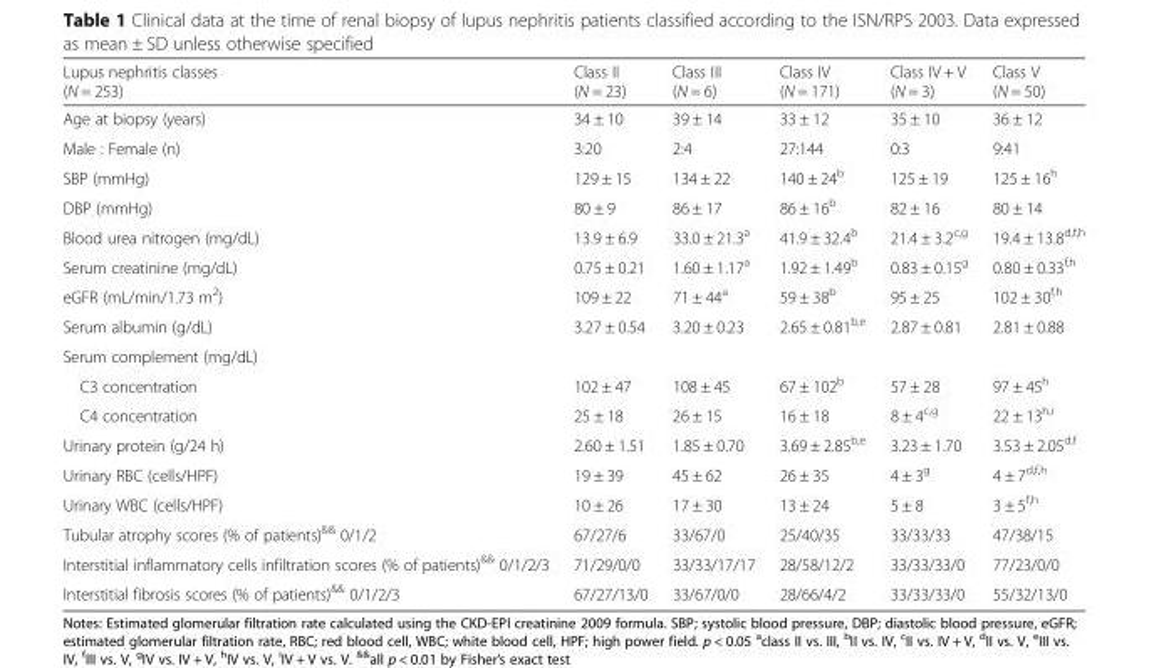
<table><thead><tr><td>Lupus nephritis classes (N = 253)</td><td>Class II (N = 23)</td><td>Class III (N = 6)</td><td>Class IV (N = 171)</td><td>Class IV + V (N = 3)</td><td>Class V (N = 50)</td></tr></thead><tbody><tr><td>Age at biopsy (years)</td><td>34 ± 10</td><td>39 ± 14</td><td>33 ± 12</td><td>35 ± 10</td><td>36 ± 12</td></tr><tr><td>Male : Female (n)</td><td>3:20</td><td>2:4</td><td>27:144</td><td>0:3</td><td>9:41</td></tr><tr><td>SBP (mmHg)</td><td>129 ± 15</td><td>134 ± 22</td><td>140 ± 24<sup>b</sup></td><td>125 ± 19</td><td>125 ± 16<sup>h</sup></td></tr><tr><td>DBP (mmHg)</td><td>80 ± 9</td><td>86 ± 17</td><td>86 ± 16<sup>b</sup></td><td>82 ± 16</td><td>80 ± 14</td></tr><tr><td>Blood urea nitrogen (mg/dL)</td><td>13.9 ± 6.9</td><td>33.0 ± 21.3<sup>a</sup></td><td>41.9 ± 32.4<sup>b</sup></td><td>21.4 ± 3.2<sup>c,g</sup></td><td>19.4 ± 13.8<sup>d,f,h</sup></td></tr><tr><td>Serum creatinine (mg/dL)</td><td>0.75 ± 0.21</td><td>1.60 ± 1.17<sup>a</sup></td><td>1.92 ± 1.49<sup>b</sup></td><td>0.83 ± 0.15<sup>g</sup></td><td>0.80 ± 0.33<sup>f,h</sup></td></tr><tr><td>eGFR (mL/min/1.73 m<sup>2</sup>)</td><td>109 ± 22</td><td>71 ± 44<sup>a</sup></td><td>59 ± 38<sup>b</sup></td><td>95 ± 25</td><td>102 ± 30<sup>f,h</sup></td></tr><tr><td>Serum albumin (g/dL)</td><td>3.27 ± 0.54</td><td>3.20 ± 0.23</td><td>2.65 ± 0.81<sup>b,e</sup></td><td>2.87 ± 0.81</td><td>2.81 ± 0.88</td></tr><tr><td colspan="6">Serum complement (mg/dL)</td></tr><tr><td>C3 concentration</td><td>102 ± 47</td><td>108 ± 45</td><td>67 ± 102<sup>b</sup></td><td>57 ± 28</td><td>97 ± 45<sup>h</sup></td></tr><tr><td>C4 concentration</td><td>25 ± 18</td><td>26 ± 15</td><td>16 ± 18</td><td>8 ± 4<sup>c,g</sup></td><td>22 ± 13<sup>h,i</sup></td></tr><tr><td>Urinary protein (g/24 h)</td><td>2.60 ± 1.51</td><td>1.85 ± 0.70</td><td>3.69 ± 2.85<sup>b,e</sup></td><td>3.23 ± 1.70</td><td>3.53 ± 2.05<sup>d,f</sup></td></tr><tr><td>Urinary RBC (cells/HPF)</td><td>19 ± 39</td><td>45 ± 62</td><td>26 ± 35</td><td>4 ± 3<sup>g</sup></td><td>4 ± 7<sup>d,f,h</sup></td></tr><tr><td>Urinary WBC (cells/HPF)</td><td>10 ± 26</td><td>17 ± 30</td><td>13 ± 24</td><td>5 ± 8</td><td>3 ± 5<sup>f,h</sup></td></tr><tr><td>Tubular atrophy scores (% of patients)<sup>&amp;&amp;</sup> 0/1/2</td><td>67/27/6</td><td>33/67/0</td><td>25/40/35</td><td>33/33/33</td><td>47/38/15</td></tr><tr><td>Interstitial inflammatory cells infiltration scores (% of patients)<sup>&amp;&amp;</sup> 0/1/2/3</td><td>71/29/0/0</td><td>33/33/17/17</td><td>28/58/12/2</td><td>33/33/33/0</td><td>77/23/0/0</td></tr><tr><td>Interstitial fibrosis scores (% of patients)<sup>&amp;&amp;</sup> 0/1/2/3</td><td>67/27/13/0</td><td>33/67/0/0</td><td>28/66/4/2</td><td>33/33/33/0</td><td>55/32/13/0</td></tr></tbody></table>